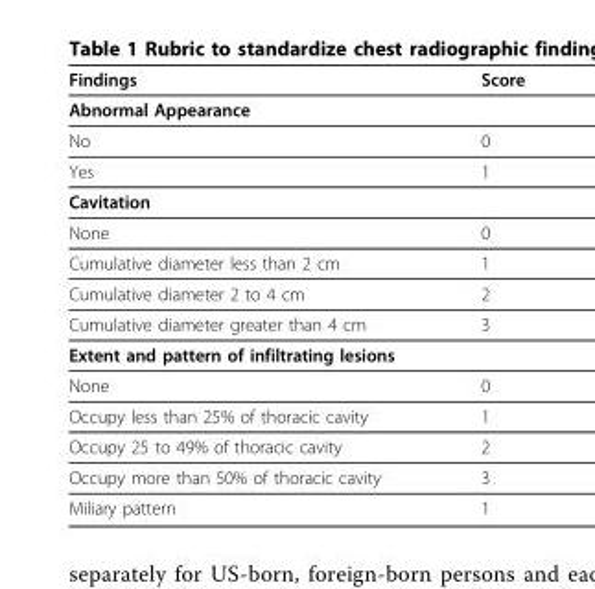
<table><thead><tr><td>Findings</td><td>Score</td></tr></thead><tbody><tr><td colspan="2">Abnormal Appearance</td></tr><tr><td>No</td><td>0</td></tr><tr><td>Yes</td><td>1</td></tr><tr><td colspan="2">Cavitation</td></tr><tr><td>None</td><td>0</td></tr><tr><td>Cumulative diameter less than 2 cm</td><td>1</td></tr><tr><td>Cumulative diameter 2 to 4 cm</td><td>2</td></tr><tr><td>Cumulative diameter greater than 4 cm</td><td>3</td></tr><tr><td colspan="2">Extent and pattern of infiltrating lesions</td></tr><tr><td>None</td><td>0</td></tr><tr><td>Occupy less than 25% of thoracic cavity</td><td>1</td></tr><tr><td>Occupy 25 to 49% of thoracic cavity</td><td>2</td></tr><tr><td>Occupy more than 50% of thoracic cavity</td><td>3</td></tr><tr><td>Miliary pattern</td><td>1</td></tr></tbody></table>